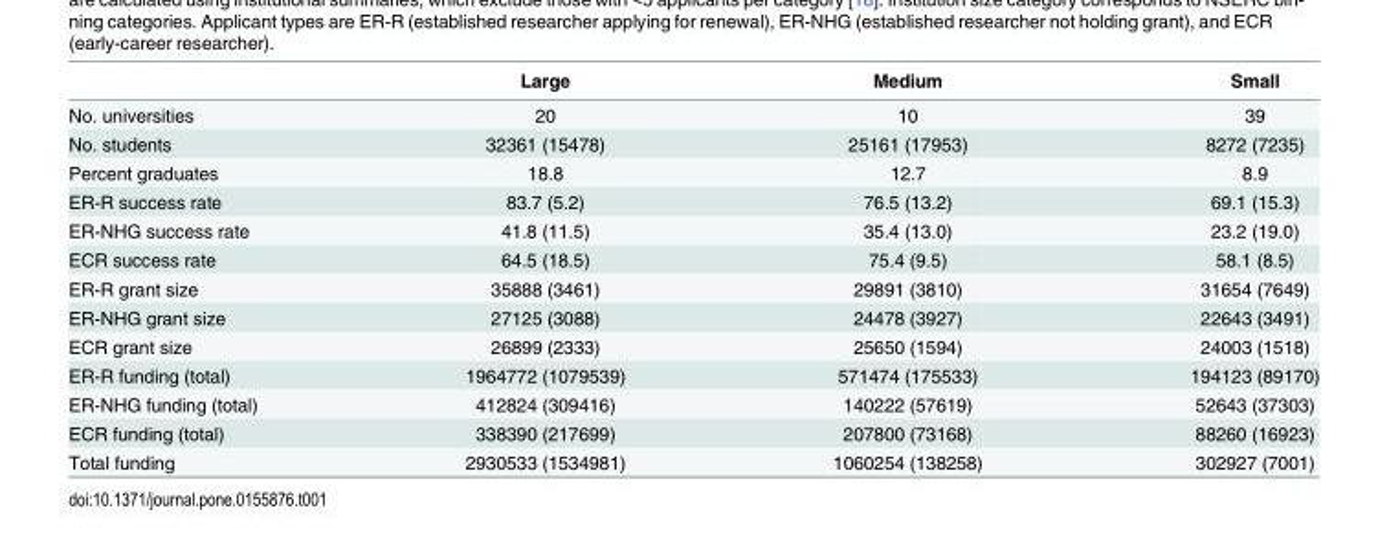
<table><thead><tr><td></td><td>Large</td><td>Medium</td><td>Small</td></tr></thead><tbody><tr><td>No. universities</td><td>20</td><td>10</td><td>39</td></tr><tr><td>No. students</td><td>32361 (15478)</td><td>25161 (17953)</td><td>8272 (7235)</td></tr><tr><td>Percent graduates</td><td>18.8</td><td>12.7</td><td>8.9</td></tr><tr><td>ER-R success rate</td><td>83.7 (5.2)</td><td>76.5 (13.2)</td><td>69.1 (15.3)</td></tr><tr><td>ER-NHG success rate</td><td>41.8 (11.5)</td><td>35.4 (13.0)</td><td>23.2 (19.0)</td></tr><tr><td>ECR success rate</td><td>64.5 (18.5)</td><td>75.4 (9.5)</td><td>58.1 (8.5)</td></tr><tr><td>ER-R grant size</td><td>35888 (3461)</td><td>29891 (3810)</td><td>31654 (7649)</td></tr><tr><td>ER-NHG grant size</td><td>27125 (3088)</td><td>24478 (3927)</td><td>22643 (3491)</td></tr><tr><td>ECR grant size</td><td>26899 (2333)</td><td>25650 (1594)</td><td>24003 (1518)</td></tr><tr><td>ER-R funding (total)</td><td>1964772 (1079539)</td><td>571474 (175533)</td><td>194123 (89170)</td></tr><tr><td>ER-NHG funding (total)</td><td>412824 (309416)</td><td>140222 (57619)</td><td>52643 (37303)</td></tr><tr><td>ECR funding (total)</td><td>338390 (217699)</td><td>207800 (73168)</td><td>88260 (16923)</td></tr><tr><td>Total funding</td><td>2930533 (1534981)</td><td>1060254 (138258)</td><td>302927 (7001)</td></tr></tbody></table>